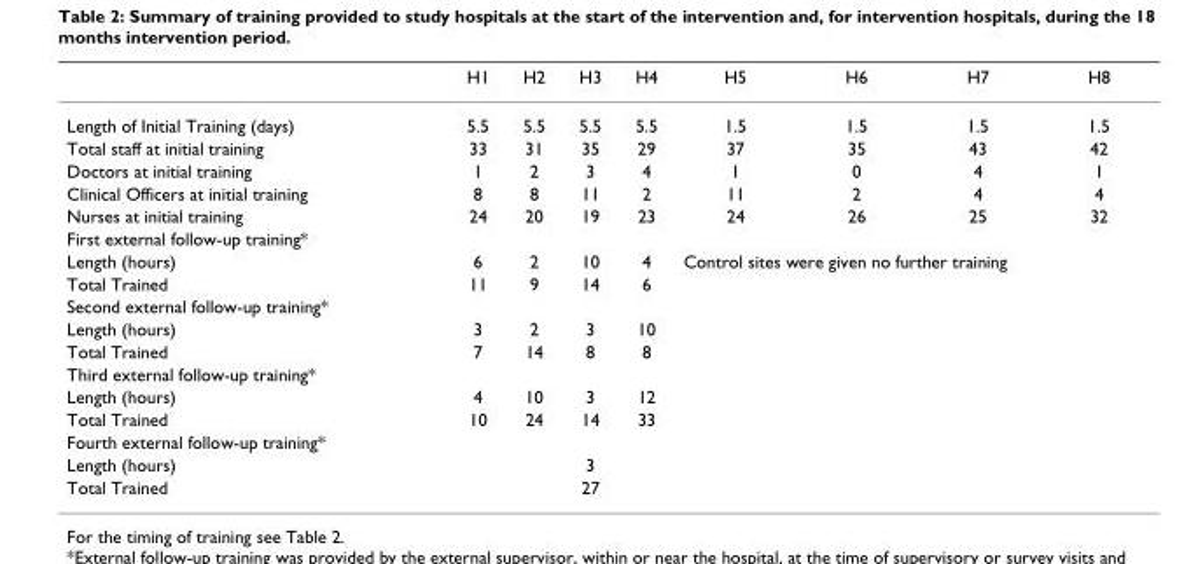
<table><thead><tr><td></td><td>H1</td><td>H2</td><td>H3</td><td>H4</td><td>H5</td><td>H6</td><td>H7</td><td>H8</td></tr></thead><tbody><tr><td>Length of Initial Training (days)</td><td>5.5</td><td>5.5</td><td>5.5</td><td>5.5</td><td>1.5</td><td>1.5</td><td>1.5</td><td>1.5</td></tr><tr><td>Total staff at initial training</td><td>33</td><td>31</td><td>35</td><td>29</td><td>37</td><td>35</td><td>43</td><td>42</td></tr><tr><td>Doctors at initial training</td><td>1</td><td>2</td><td>3</td><td>4</td><td>1</td><td>0</td><td>4</td><td>1</td></tr><tr><td>Clinical Officers at initial training</td><td>8</td><td>8</td><td>11</td><td>2</td><td>11</td><td>2</td><td>4</td><td>4</td></tr><tr><td>Nurses at initial training</td><td>24</td><td>20</td><td>19</td><td>23</td><td>24</td><td>26</td><td>25</td><td>32</td></tr><tr><td colspan="9">First external follow-up training*</td></tr><tr><td>Length (hours)</td><td>6</td><td>2</td><td>10</td><td>4</td><td colspan="4">Control sites were given no further training</td></tr><tr><td>Total Trained</td><td>11</td><td>9</td><td>14</td><td>6</td><td></td><td></td><td></td><td></td></tr><tr><td colspan="9">Second external follow-up training*</td></tr><tr><td>Length (hours)</td><td>3</td><td>2</td><td>3</td><td>10</td><td></td><td></td><td></td><td></td></tr><tr><td>Total Trained</td><td>7</td><td>14</td><td>8</td><td>8</td><td></td><td></td><td></td><td></td></tr><tr><td colspan="9">Third external follow-up training*</td></tr><tr><td>Length (hours)</td><td>4</td><td>10</td><td>3</td><td>12</td><td></td><td></td><td></td><td></td></tr><tr><td>Total Trained</td><td>10</td><td>24</td><td>14</td><td>33</td><td></td><td></td><td></td><td></td></tr><tr><td colspan="9">Fourth external follow-up training*</td></tr><tr><td>Length (hours)</td><td></td><td></td><td>3</td><td></td><td></td><td></td><td></td><td></td></tr><tr><td>Total Trained</td><td></td><td></td><td>27</td><td></td><td></td><td></td><td></td><td></td></tr></tbody></table>